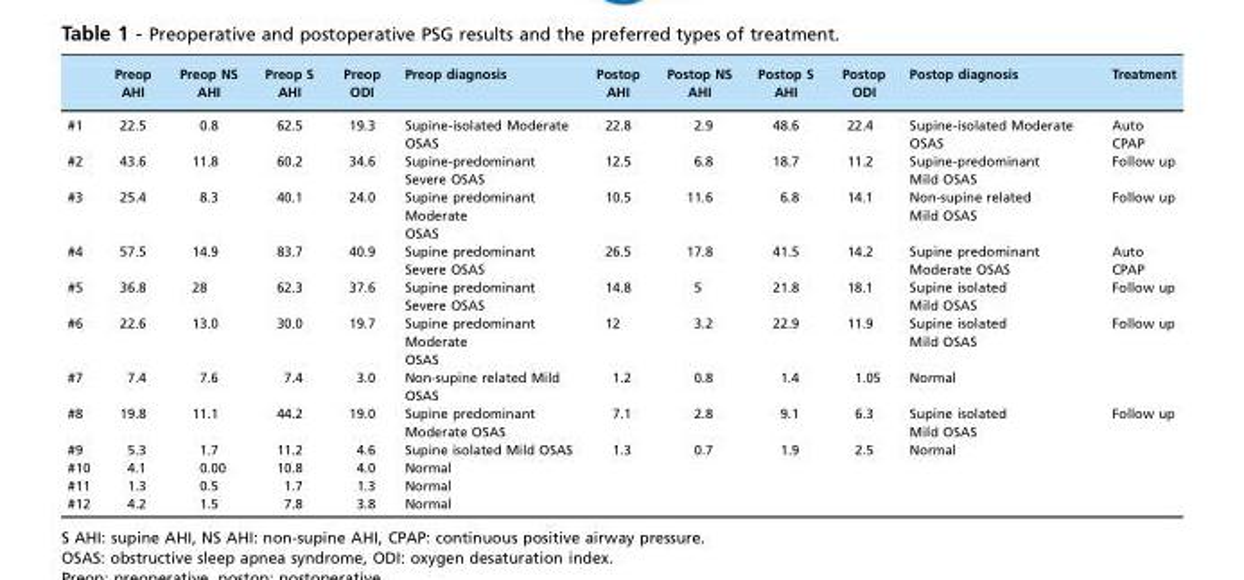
<table><thead><tr><td></td><td>Preop AHI</td><td>Preop NS AHI</td><td>Preop S AHI</td><td>Preop ODI</td><td>Preop diagnosis</td><td>Postop AHI</td><td>Postop NS AHI</td><td>Postop S AHI</td><td>Postop ODI</td><td>Postop diagnosis</td><td>Treatment</td></tr></thead><tbody><tr><td>#1</td><td>22.5</td><td>0.8</td><td>62.5</td><td>19.3</td><td>Supine-isolated Moderate OSAS</td><td>22.8</td><td>2.9</td><td>48.6</td><td>22.4</td><td>Supine-isolated Moderate OSAS</td><td>Auto CPAP</td></tr><tr><td>#2</td><td>43.6</td><td>11.8</td><td>60.2</td><td>34.6</td><td>Supine-predominant Severe OSAS</td><td>12.5</td><td>6.8</td><td>18.7</td><td>11.2</td><td>Supine-predominant Mild OSAS</td><td>Follow up</td></tr><tr><td>#3</td><td>25.4</td><td>8.3</td><td>40.1</td><td>24.0</td><td>Supine predominant Moderate OSAS</td><td>10.5</td><td>11.6</td><td>6.8</td><td>14.1</td><td>Non-supine related Mild OSAS</td><td>Follow up</td></tr><tr><td>#4</td><td>57.5</td><td>14.9</td><td>83.7</td><td>40.9</td><td>Supine predominant Severe OSAS</td><td>26.5</td><td>17.8</td><td>41.5</td><td>14.2</td><td>Supine predominant Moderate OSAS</td><td>Auto CPAP</td></tr><tr><td>#5</td><td>36.8</td><td>28</td><td>62.3</td><td>37.6</td><td>Supine predominant Severe OSAS</td><td>14.8</td><td>5</td><td>21.8</td><td>18.1</td><td>Supine isolated Mild OSAS</td><td>Follow up</td></tr><tr><td>#6</td><td>22.6</td><td>13.0</td><td>30.0</td><td>19.7</td><td>Supine predominant Moderate OSAS</td><td>12</td><td>3.2</td><td>22.9</td><td>11.9</td><td>Supine isolated Mild OSAS</td><td>Follow up</td></tr><tr><td>#7</td><td>7.4</td><td>7.6</td><td>7.4</td><td>3.0</td><td>Non-supine related Mild OSAS</td><td>1.2</td><td>0.8</td><td>1.4</td><td>1.05</td><td>Normal</td><td></td></tr><tr><td>#8</td><td>19.8</td><td>11.1</td><td>44.2</td><td>19.0</td><td>Supine predominant Moderate OSAS</td><td>7.1</td><td>2.8</td><td>9.1</td><td>6.3</td><td>Supine isolated Mild OSAS</td><td>Follow up</td></tr><tr><td>#9</td><td>5.3</td><td>1.7</td><td>11.2</td><td>4.6</td><td>Supine isolated Mild OSAS</td><td>1.3</td><td>0.7</td><td>1.9</td><td>2.5</td><td>Normal</td><td></td></tr><tr><td>#10</td><td>4.1</td><td>0.00</td><td>10.8</td><td>4.0</td><td>Normal</td><td></td><td></td><td></td><td></td><td></td><td></td></tr><tr><td>#11</td><td>1.3</td><td>0.5</td><td>1.7</td><td>1.3</td><td>Normal</td><td></td><td></td><td></td><td></td><td></td><td></td></tr><tr><td>#12</td><td>4.2</td><td>1.5</td><td>7.8</td><td>3.8</td><td>Normal</td><td></td><td></td><td></td><td></td><td></td><td></td></tr></tbody></table>